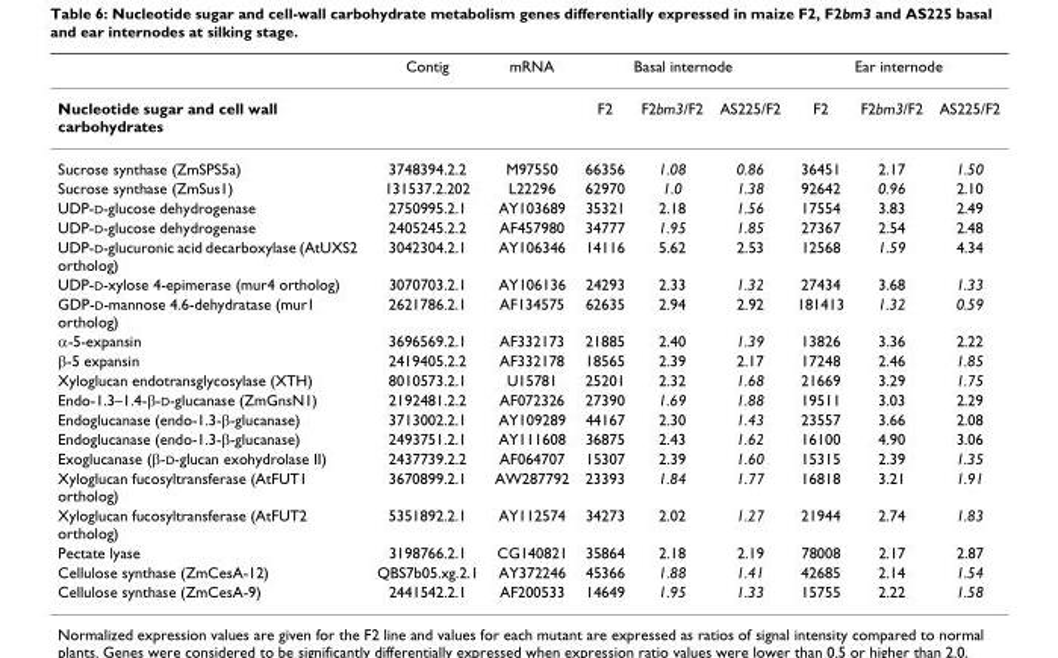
<table><thead><tr><td rowspan="2">Nucleotide sugar and cell wall carbohydrates</td><td rowspan="2">Contig</td><td rowspan="2">mRNA</td><td colspan="3">Basal internode</td><td colspan="3">Ear internode</td></tr><tr><td>F2</td><td>F2bm3/F2</td><td>AS225/F2</td><td>F2</td><td>F2bm3/F2</td><td>AS225/F2</td></tr></thead><tbody><tr><td>Sucrose synthase (ZmSPS5a)</td><td>3748394.2.2</td><td>M97550</td><td>66356</td><td>1.08</td><td>0.86</td><td>36451</td><td>2.17</td><td>1.50</td></tr><tr><td>Sucrose synthase (ZmSus1)</td><td>131537.2.202</td><td>L22296</td><td>62970</td><td>1.0</td><td>1.38</td><td>92642</td><td>0.96</td><td>2.10</td></tr><tr><td>UDP-D-glucose dehydrogenase</td><td>2750995.2.1</td><td>AY103689</td><td>35321</td><td>2.18</td><td>1.56</td><td>17554</td><td>3.83</td><td>2.49</td></tr><tr><td>UDP-D-glucose dehydrogenase</td><td>2405245.2.2</td><td>AF457980</td><td>34777</td><td>1.95</td><td>1.85</td><td>27367</td><td>2.54</td><td>2.48</td></tr><tr><td>UDP-D-glucuronic acid decarboxylase (AtUXS2 ortholog)</td><td>3042304.2.1</td><td>AY106346</td><td>14116</td><td>5.62</td><td>2.53</td><td>12568</td><td>1.59</td><td>4.34</td></tr><tr><td>UDP-D-xylose 4-epimerase (mur4 ortholog)</td><td>3070703.2.1</td><td>AY106136</td><td>24293</td><td>2.33</td><td>1.32</td><td>27434</td><td>3.68</td><td>1.33</td></tr><tr><td>GDP-D-mannose 4.6-dehydratase (mur1 ortholog)</td><td>2621786.2.1</td><td>AF134575</td><td>62635</td><td>2.94</td><td>2.92</td><td>181413</td><td>1.32</td><td>0.59</td></tr><tr><td>α-5-expansin</td><td>3696569.2.1</td><td>AF332173</td><td>21885</td><td>2.40</td><td>1.39</td><td>13826</td><td>3.36</td><td>2.22</td></tr><tr><td>β-5 expansin</td><td>2419405.2.2</td><td>AF332178</td><td>18565</td><td>2.39</td><td>2.17</td><td>17248</td><td>2.46</td><td>1.85</td></tr><tr><td>Xyloglucan endotransglycosylase (XTH)</td><td>8010573.2.1</td><td>U15781</td><td>25201</td><td>2.32</td><td>1.68</td><td>21669</td><td>3.29</td><td>1.75</td></tr><tr><td>Endo-1.3–1.4-β-D-glucanase (ZmGnsN1)</td><td>2192481.2.2</td><td>AF072326</td><td>27390</td><td>1.69</td><td>1.88</td><td>19511</td><td>3.03</td><td>2.29</td></tr><tr><td>Endoglucanase (endo-1.3-β-glucanase)</td><td>3713002.2.1</td><td>AY109289</td><td>44167</td><td>2.30</td><td>1.43</td><td>23557</td><td>3.66</td><td>2.08</td></tr><tr><td>Endoglucanase (endo-1.3-β-glucanase)</td><td>2493751.2.1</td><td>AY111608</td><td>36875</td><td>2.43</td><td>1.62</td><td>16100</td><td>4.90</td><td>3.06</td></tr><tr><td>Exoglucanase (β-D-glucan exohydrolase II)</td><td>2437739.2.2</td><td>AF064707</td><td>15307</td><td>2.39</td><td>1.60</td><td>15315</td><td>2.39</td><td>1.35</td></tr><tr><td>Xyloglucan fucosyltransferase (AtFUT1 ortholog)</td><td>3670899.2.1</td><td>AW287792</td><td>23393</td><td>1.84</td><td>1.77</td><td>16818</td><td>3.21</td><td>1.91</td></tr><tr><td>Xyloglucan fucosyltransferase (AtFUT2 ortholog)</td><td>5351892.2.1</td><td>AY112574</td><td>34273</td><td>2.02</td><td>1.27</td><td>21944</td><td>2.74</td><td>1.83</td></tr><tr><td>Pectate lyase</td><td>3198766.2.1</td><td>CG140821</td><td>35864</td><td>2.18</td><td>2.19</td><td>78008</td><td>2.17</td><td>2.87</td></tr><tr><td>Cellulose synthase (ZmCesA-12)</td><td>QBS7b05.xg.2.1</td><td>AY372246</td><td>45366</td><td>1.88</td><td>1.41</td><td>42685</td><td>2.14</td><td>1.54</td></tr><tr><td>Cellulose synthase (ZmCesA-9)</td><td>2441542.2.1</td><td>AF200533</td><td>14649</td><td>1.95</td><td>1.33</td><td>15755</td><td>2.22</td><td>1.58</td></tr></tbody></table>